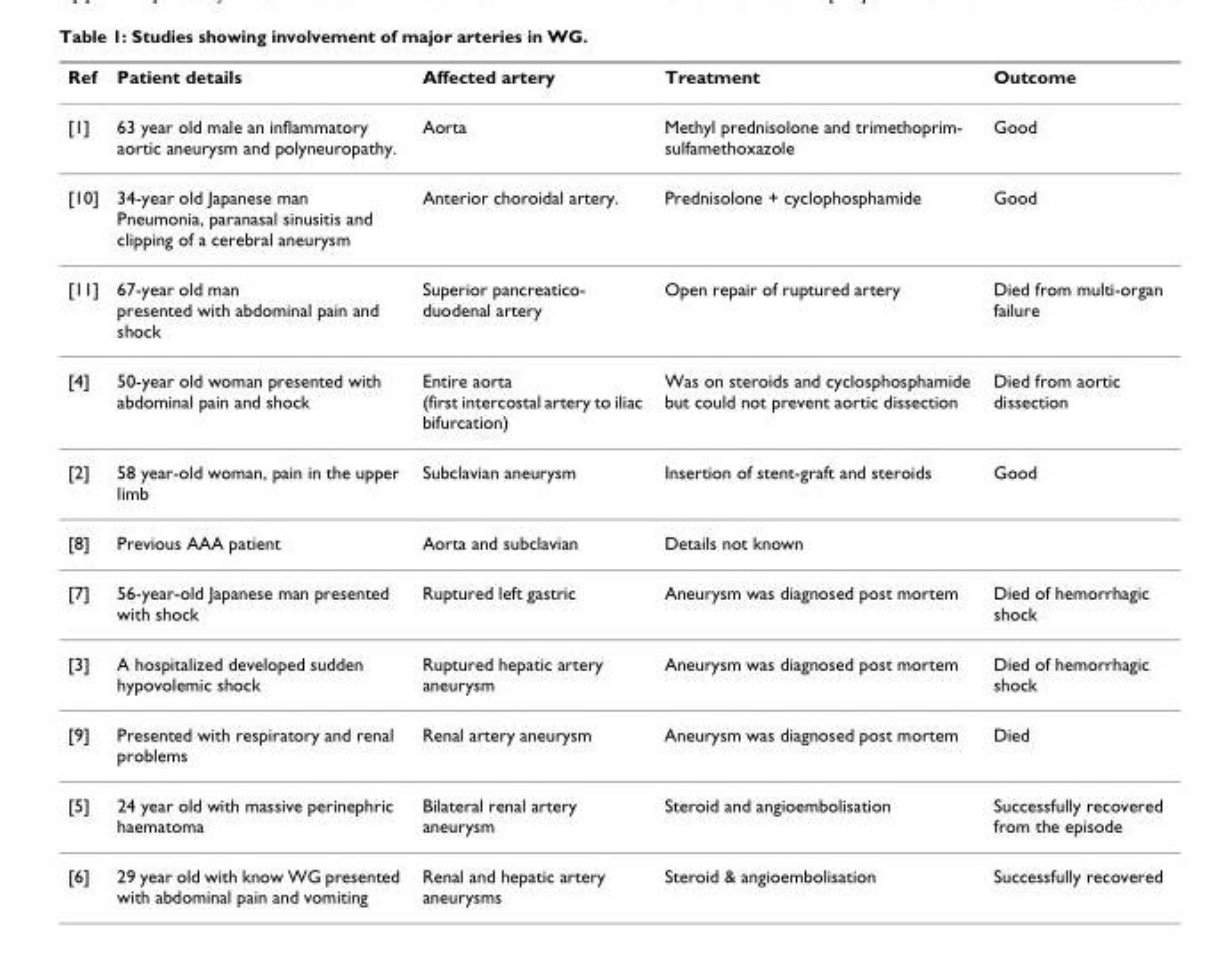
<table><thead><tr><td>Ref</td><td>Patient details</td><td>Affected artery</td><td>Treatment</td><td>Outcome</td></tr></thead><tbody><tr><td>[1]</td><td>63 year old male an inflammatory aortic aneurysm and polyneuropathy.</td><td>Aorta</td><td>Methyl prednisolone and trimethoprim- sulfamethoxazole</td><td>Good</td></tr><tr><td>[10]</td><td>34-year old Japanese man Pneumonia, paranasal sinusitis and clipping of a cerebral aneurysm</td><td>Anterior choroidal artery.</td><td>Prednisolone + cyclophosphamide</td><td>Good</td></tr><tr><td>[11]</td><td>67-year old man presented with abdominal pain and shock</td><td>Superior pancreatico- duodenal artery</td><td>Open repair of ruptured artery</td><td>Died from multi-organ failure</td></tr><tr><td>[4]</td><td>50-year old woman presented with abdominal pain and shock</td><td>Entire aorta (first intercostal artery to iliac bifurcation)</td><td>Was on steroids and cyclosphosphamide but could not prevent aortic dissection</td><td>Died from aortic dissection</td></tr><tr><td>[2]</td><td>58 year-old woman, pain in the upper limb</td><td>Subclavian aneurysm</td><td>Insertion of stent-graft and steroids</td><td>Good</td></tr><tr><td>[8]</td><td>Previous AAA patient</td><td>Aorta and subclavian</td><td>Details not known</td><td></td></tr><tr><td>[7]</td><td>56-year-old Japanese man presented with shock</td><td>Ruptured left gastric</td><td>Aneurysm was diagnosed post mortem</td><td>Died of hemorrhagic shock</td></tr><tr><td>[3]</td><td>A hospitalized developed sudden hypovolemic shock</td><td>Ruptured hepatic artery aneurysm</td><td>Aneurysm was diagnosed post mortem</td><td>Died of hemorrhagic shock</td></tr><tr><td>[9]</td><td>Presented with respiratory and renal problems</td><td>Renal artery aneurysm</td><td>Aneurysm was diagnosed post mortem</td><td>Died</td></tr><tr><td>[5]</td><td>24 year old with massive perinephric haematoma</td><td>Bilateral renal artery aneurysm</td><td>Steroid and angioembolisation</td><td>Successfully recovered from the episode</td></tr><tr><td>[6]</td><td>29 year old with know WG presented with abdominal pain and vomiting</td><td>Renal and hepatic artery aneurysms</td><td>Steroid &amp; angioembolisation</td><td>Successfully recovered</td></tr></tbody></table>